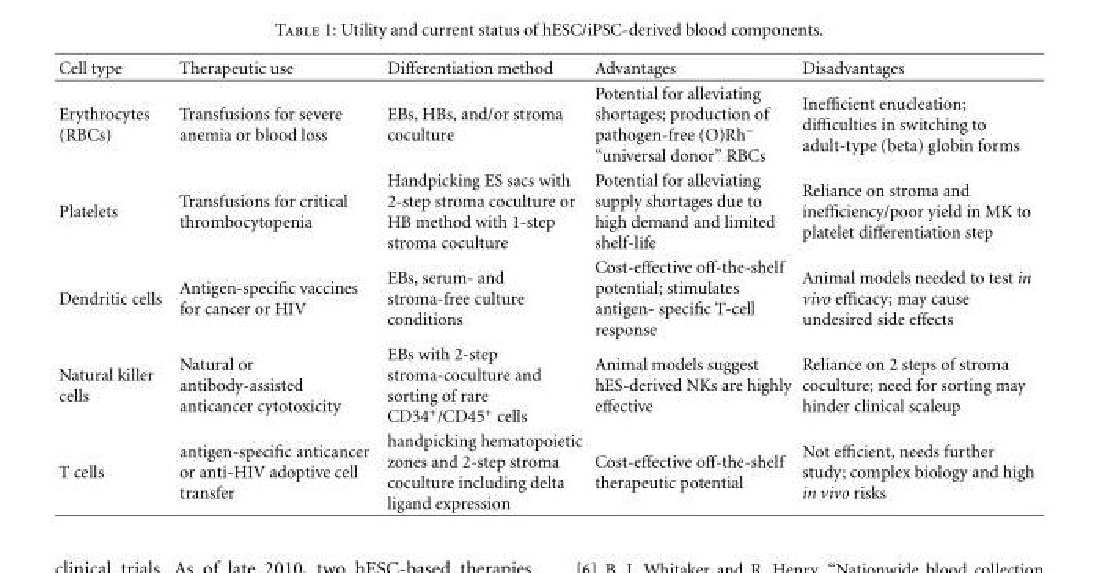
<table><thead><tr><td>Cell type</td><td>Therapeutic use</td><td>Differentiation method</td><td>Advantages</td><td>Disadvantages</td></tr></thead><tbody><tr><td>Erythrocytes (RBCs)</td><td>Transfusions for severe anemia or blood loss</td><td>EBs, HBs, and/or stroma coculture</td><td>Potential for alleviating shortages; production of pathogen-free (O)Rh<sup>−</sup> “universal donor” RBCs</td><td>Inefficient enucleation; difficulties in switching to adult-type (beta) globin forms</td></tr><tr><td>Platelets</td><td>Transfusions for critical thrombocytopenia</td><td>Handpicking ES sacs with 2-step stroma coculture or HB method with 1-step stroma coculture</td><td>Potential for alleviating supply shortages due to high demand and limited shelf-life</td><td>Reliance on stroma and inefficiency/poor yield in MK to platelet differentiation step</td></tr><tr><td>Dendritic cells</td><td>Antigen-specific vaccines for cancer or HIV</td><td>EBs, serum- and stroma-free culture conditions</td><td>Cost-effective off-the-shelf potential; stimulates antigen- specific T-cell response</td><td>Animal models needed to test in vivo efficacy; may cause undesired side effects</td></tr><tr><td>Natural killer cells</td><td>Natural or antibody-assisted anticancer cytotoxicity</td><td>EBs with 2-step stroma-coculture and sorting of rare CD34<sup>+</sup>/CD45<sup>+</sup> cells</td><td>Animal models suggest hES-derived NKs are highly effective</td><td>Reliance on 2 steps of stroma coculture; need for sorting may hinder clinical scaleup</td></tr><tr><td>T cells</td><td>antigen-specific anticancer or anti-HIV adoptive cell transfer</td><td>handpicking hematopoietic zones and 2-step stroma coculture including delta ligand expression</td><td>Cost-effective off-the-shelf therapeutic potential</td><td>Not efficient, needs further study; complex biology and high in vivo risks</td></tr></tbody></table>